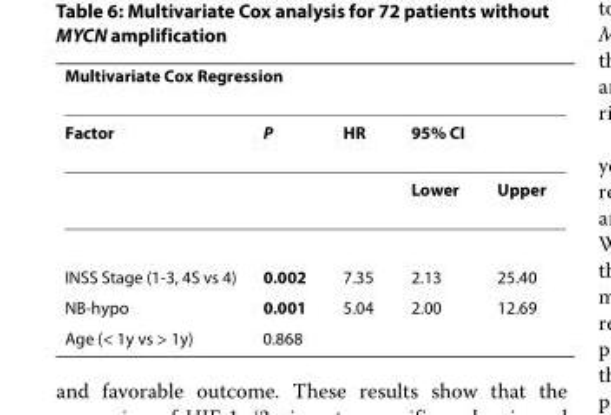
<table><thead><tr><td colspan="2">Multivariate Cox Regression</td><td rowspan="2">HR</td><td></td><td></td></tr><tr><td>Factor</td><td>P</td><td colspan="2">95% CI</td></tr></thead><tbody><tr><td></td><td></td><td></td><td>Lower</td><td>Upper</td></tr><tr><td>INSS Stage (1-3, 4S vs 4)</td><td>0.002</td><td>7.35</td><td>2.13</td><td>25.40</td></tr><tr><td>NB-hypo</td><td>0.001</td><td>5.04</td><td>2.00</td><td>12.69</td></tr><tr><td>Age (&lt; 1y vs &gt; 1y)</td><td>0.868</td><td></td><td></td><td></td></tr></tbody></table>